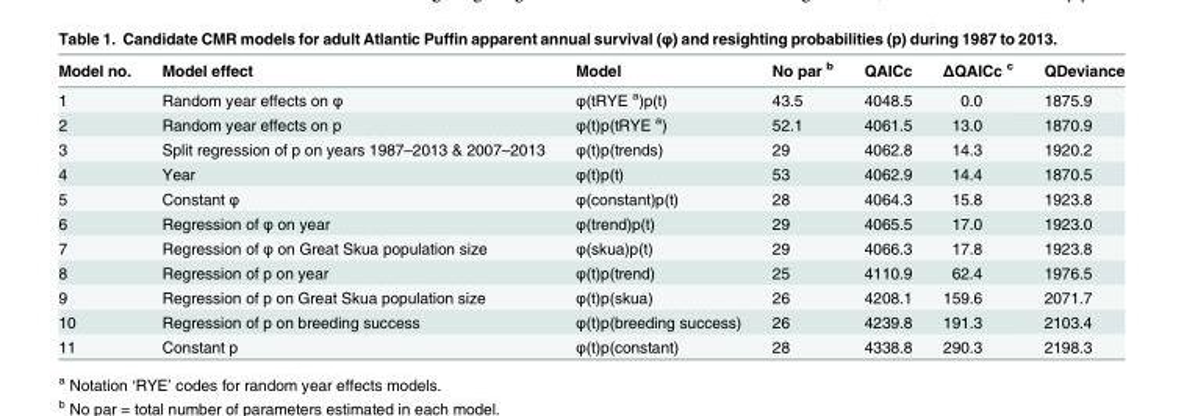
<table><thead><tr><td>Model no.</td><td>Model effect</td><td>Model</td><td>No par <sup>b</sup></td><td>QAICc</td><td>ΔQAICc <sup>c</sup></td><td>QDeviance</td></tr></thead><tbody><tr><td>1</td><td>Random year effects on φ</td><td>φ(tRYE <sup>a</sup>)p(t)</td><td>43.5</td><td>4048.5</td><td>0.0</td><td>1875.9</td></tr><tr><td>2</td><td>Random year effects on p</td><td>φ(t)p(tRYE <sup>a</sup>)</td><td>52.1</td><td>4061.5</td><td>13.0</td><td>1870.9</td></tr><tr><td>3</td><td>Split regression of p on years 1987–2013 &amp; 2007–2013</td><td>φ(t)p(trends)</td><td>29</td><td>4062.8</td><td>14.3</td><td>1920.2</td></tr><tr><td>4</td><td>Year</td><td>φ(t)p(t)</td><td>53</td><td>4062.9</td><td>14.4</td><td>1870.5</td></tr><tr><td>5</td><td>Constant φ</td><td>φ(constant)p(t)</td><td>28</td><td>4064.3</td><td>15.8</td><td>1923.8</td></tr><tr><td>6</td><td>Regression of φ on year</td><td>φ(trend)p(t)</td><td>29</td><td>4065.5</td><td>17.0</td><td>1923.0</td></tr><tr><td>7</td><td>Regression of φ on Great Skua population size</td><td>φ(skua)p(t)</td><td>29</td><td>4066.3</td><td>17.8</td><td>1923.8</td></tr><tr><td>8</td><td>Regression of p on year</td><td>φ(t)p(trend)</td><td>25</td><td>4110.9</td><td>62.4</td><td>1976.5</td></tr><tr><td>9</td><td>Regression of p on Great Skua population size</td><td>φ(t)p(skua)</td><td>26</td><td>4208.1</td><td>159.6</td><td>2071.7</td></tr><tr><td>10</td><td>Regression of p on breeding success</td><td>φ(t)p(breeding success)</td><td>26</td><td>4239.8</td><td>191.3</td><td>2103.4</td></tr><tr><td>11</td><td>Constant p</td><td>φ(t)p(constant)</td><td>28</td><td>4338.8</td><td>290.3</td><td>2198.3</td></tr></tbody></table>